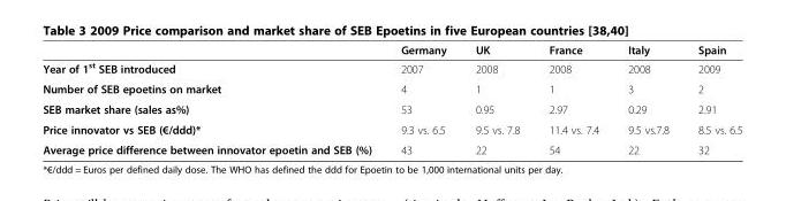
<table><thead><tr><td></td><td>Germany</td><td>UK</td><td>France</td><td>Italy</td><td>Spain</td></tr></thead><tbody><tr><td>Year of 1<sup>st</sup> SEB introduced</td><td>2007</td><td>2008</td><td>2008</td><td>2008</td><td>2009</td></tr><tr><td>Number of SEB epoetins on market</td><td>4</td><td>1</td><td>1</td><td>3</td><td>2</td></tr><tr><td>SEB market share (sales as%)</td><td>53</td><td>0.95</td><td>2.97</td><td>0.29</td><td>2.91</td></tr><tr><td>Price innovator vs SEB (€/ddd)*</td><td>9.3 vs. 6.5</td><td>9.5 vs. 7.8</td><td>11.4 vs. 7.4</td><td>9.5 vs.7.8</td><td>8.5 vs. 6.5</td></tr><tr><td>Average price difference between innovator epoetin and SEB (%)</td><td>43</td><td>22</td><td>54</td><td>22</td><td>32</td></tr></tbody></table>